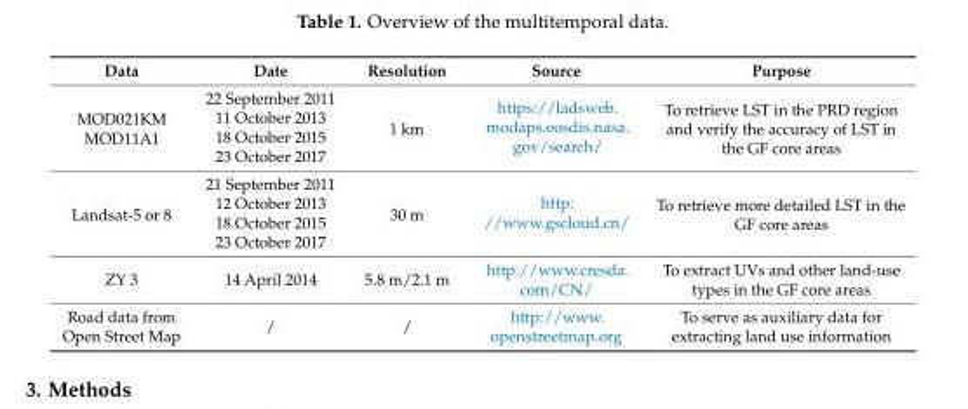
<table><thead><tr><td>Data</td><td>Date</td><td>Resolution</td><td>Source</td><td>Purpose</td></tr></thead><tbody><tr><td rowspan="4">MOD021KM MOD11A1</td><td>22 September 2011</td><td rowspan="4">1 km</td><td rowspan="4">https://ladsweb. modaps.eosdis.nasa. gov/search/</td><td rowspan="4">To retrieve LST in the PRD region and verify the accuracy of LST in the GF core areas</td></tr><tr><td>11 October 2013</td></tr><tr><td>18 October 2015</td></tr><tr><td>23 October 2017</td></tr><tr><td rowspan="4">Landsat-5 or 8</td><td>21 September 2011</td><td rowspan="4">30 m</td><td rowspan="4">http: //www.gscloud.cn/</td><td rowspan="4">To retrieve more detailed LST in the GF core areas</td></tr><tr><td>12 October 2013</td></tr><tr><td>18 October 2015</td></tr><tr><td>23 October 2017</td></tr><tr><td>ZY 3</td><td>14 April 2014</td><td>5.8 m/2.1 m</td><td>http://www.cresda. com/CN/</td><td>To extract UVs and other land-use types in the GF core areas</td></tr><tr><td>Road data from Open Street Map</td><td>/</td><td>/</td><td>http://www. openstreetmap.org</td><td>To serve as auxiliary data for extracting land use information</td></tr></tbody></table>